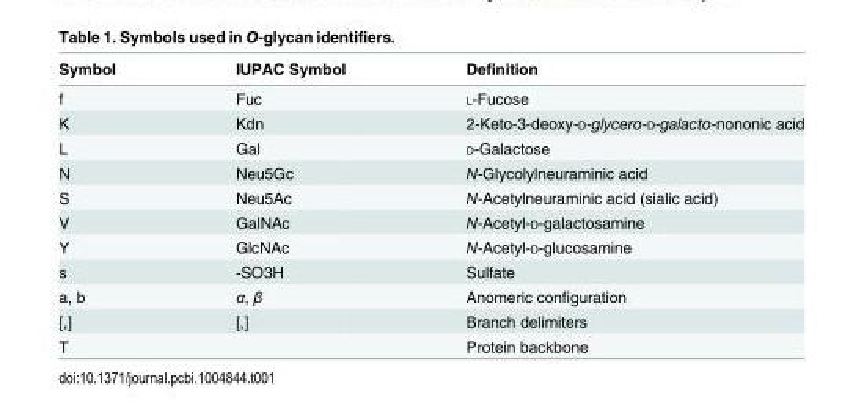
<table><thead><tr><td>Symbol</td><td>IUPAC Symbol</td><td>Definition</td></tr></thead><tbody><tr><td>f</td><td>Fuc</td><td>L-Fucose</td></tr><tr><td>K</td><td>Kdn</td><td>2-Keto-3-deoxy-D-glycero-D-galacto-nononic acid</td></tr><tr><td>L</td><td>Gal</td><td>D-Galactose</td></tr><tr><td>N</td><td>Neu5Gc</td><td>N-Glycolylneuraminic acid</td></tr><tr><td>S</td><td>Neu5Ac</td><td>N-Acetylneuraminic acid (sialic acid)</td></tr><tr><td>V</td><td>GalNAc</td><td>N-Acetyl-D-galactosamine</td></tr><tr><td>Y</td><td>GlcNAc</td><td>N-Acetyl-D-glucosamine</td></tr><tr><td>s</td><td>-SO3H</td><td>Sulfate</td></tr><tr><td>a, b</td><td>α, β</td><td>Anomeric configuration</td></tr><tr><td>[,]</td><td>[,]</td><td>Branch delimiters</td></tr><tr><td>T</td><td></td><td>Protein backbone</td></tr></tbody></table>